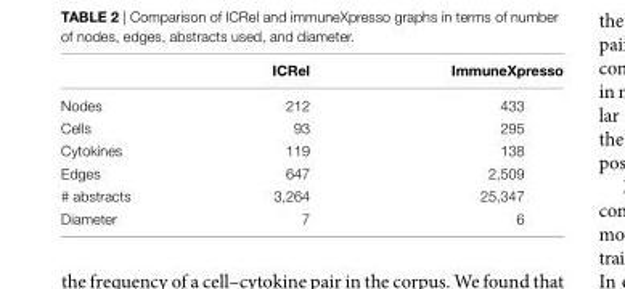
<table><thead><tr><td></td><td>icrel</td><td>immuneXpresso</td></tr></thead><tbody><tr><td>Nodes</td><td>212</td><td>433</td></tr><tr><td>Cells</td><td>93</td><td>295</td></tr><tr><td>Cytokines</td><td>119</td><td>138</td></tr><tr><td>Edges</td><td>647</td><td>2,509</td></tr><tr><td># abstracts</td><td>3,264</td><td>25,347</td></tr><tr><td>Diameter</td><td>7</td><td>6</td></tr></tbody></table>